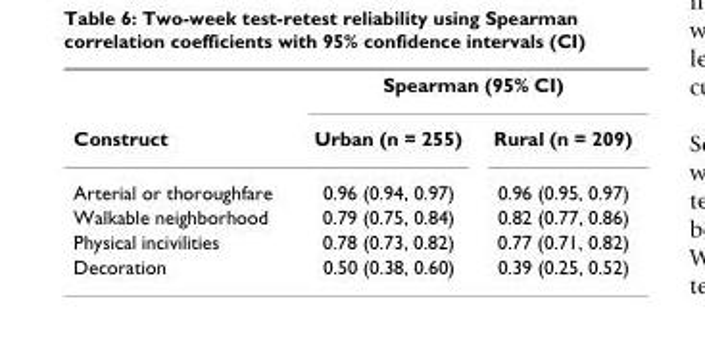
<table><thead><tr><td rowspan="2">Construct</td><td colspan="2">Spearman (95% CI)</td></tr><tr><td>Urban (n = 255)</td><td>Rural (n = 209)</td></tr></thead><tbody><tr><td>Arterial or thoroughfare</td><td>0.96 (0.94, 0.97)</td><td>0.96 (0.95, 0.97)</td></tr><tr><td>Walkable neighborhood</td><td>0.79 (0.75, 0.84)</td><td>0.82 (0.77, 0.86)</td></tr><tr><td>Physical incivilities</td><td>0.78 (0.73, 0.82)</td><td>0.77 (0.71, 0.82)</td></tr><tr><td>Decoration</td><td>0.50 (0.38, 0.60)</td><td>0.39 (0.25, 0.52)</td></tr></tbody></table>